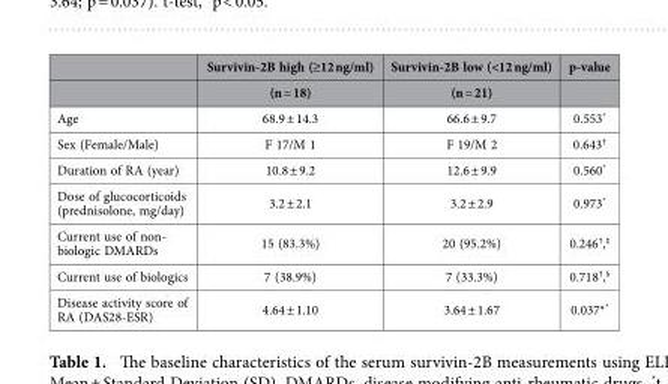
<table><thead><tr><td rowspan="2"></td><td rowspan="2">Survivin-2B high (≥12 ng/ml) (n = 18)</td><td rowspan="2">Survivin-2B low (&lt;12 ng/ml) (n = 21)</td><td rowspan="2">p-value</td></tr><tr></tr></thead><tbody><tr><td>Age</td><td>68.9 ± 14.3</td><td>66.6 ± 9.7</td><td>0.553*</td></tr><tr><td>Sex (Female/Male)</td><td>F 17/M 1</td><td>F 19/M 2</td><td>0.643†</td></tr><tr><td>Duration of RA (year)</td><td>10.8 ± 9.2</td><td>12.6 ± 9.9</td><td>0.560*</td></tr><tr><td>Dose of glucocorticoids (prednisolone, mg/day)</td><td>3.2 ± 2.1</td><td>3.2 ± 2.9</td><td>0.973*</td></tr><tr><td>Current use of non- biologic DMARDs</td><td>15 (83.3%)</td><td>20 (95.2%)</td><td>0.246†,‡</td></tr><tr><td>Current use of biologics</td><td>7 (38.9%)</td><td>7 (33.3%)</td><td>0.718†,§</td></tr><tr><td>Disease activity score of RA (DAS28-ESR)</td><td>4.64 ± 1.10</td><td>3.64 ± 1.67</td><td>0.037**</td></tr></tbody></table>